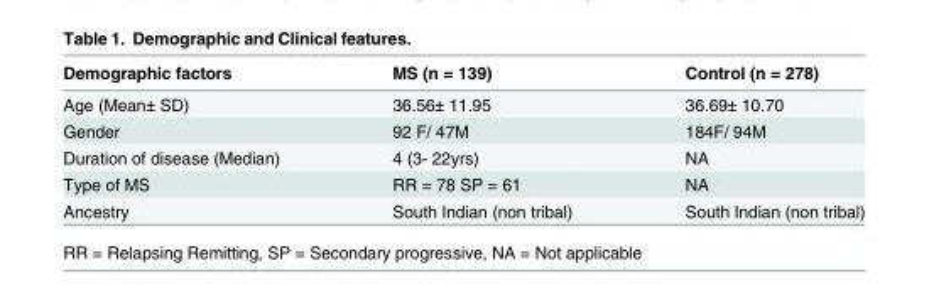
<table><thead><tr><td>Demographic factors</td><td>MS (n = 139)</td><td>Control (n = 278)</td></tr></thead><tbody><tr><td>Age (Mean± SD)</td><td>36.56± 11.95</td><td>36.69± 10.70</td></tr><tr><td>Gender</td><td>92 F/ 47M</td><td>184F/ 94M</td></tr><tr><td>Duration of disease (Median)</td><td>4 (3- 22yrs)</td><td>NA</td></tr><tr><td>Type of MS</td><td>RR = 78 SP = 61</td><td>NA</td></tr><tr><td>Ancestry</td><td>South Indian (non tribal)</td><td>South Indian (non tribal)</td></tr></tbody></table>